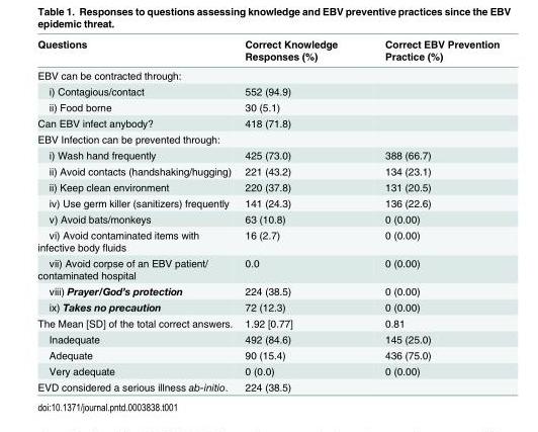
<table><thead><tr><td>Questions</td><td>Correct Knowledge Responses (%)</td><td>Correct EBV Prevention Practice (%)</td></tr></thead><tbody><tr><td colspan="3">EBV can be contracted through:</td></tr><tr><td>i) Contagious/contact</td><td>552 (94.9)</td><td></td></tr><tr><td>ii) Food borne</td><td>30 (5.1)</td><td></td></tr><tr><td>Can EBV infect anybody?</td><td>418 (71.8)</td><td></td></tr><tr><td colspan="3">EBV Infection can be prevented through:</td></tr><tr><td>i) Wash hand frequently</td><td>425 (73.0)</td><td>388 (66.7)</td></tr><tr><td>ii) Avoid contacts (handshaking/hugging)</td><td>221 (43.2)</td><td>134 (23.1)</td></tr><tr><td>ii) Keep clean environment</td><td>220 (37.8)</td><td>131 (20.5)</td></tr><tr><td>iv) Use germ killer (sanitizers) frequently</td><td>141 (24.3)</td><td>136 (22.6)</td></tr><tr><td>v) Avoid bats/monkeys</td><td>63 (10.8)</td><td>0 (0.00)</td></tr><tr><td>vi) Avoid contaminated items with infective body fluids</td><td>16 (2.7)</td><td>0 (0.00)</td></tr><tr><td>vii) Avoid corpse of an EBV patient/ contaminated hospital</td><td>0.0</td><td>0 (0.00)</td></tr><tr><td>viii) Prayer/God’s protection</td><td>224 (38.5)</td><td>0 (0.00)</td></tr><tr><td>ix) Takes no precaution</td><td>72 (12.3)</td><td>0 (0.00)</td></tr><tr><td>The Mean [SD] of the total correct answers.</td><td>1.92 [0.77]</td><td>0.81</td></tr><tr><td>Inadequate</td><td>492 (84.6)</td><td>145 (25.0)</td></tr><tr><td>Adequate</td><td>90 (15.4)</td><td>436 (75.0)</td></tr><tr><td>Very adequate</td><td>0 (0.0)</td><td>0 (0.00)</td></tr><tr><td>EVD considered a serious illness ab-initio.</td><td>224 (38.5)</td><td></td></tr></tbody></table>